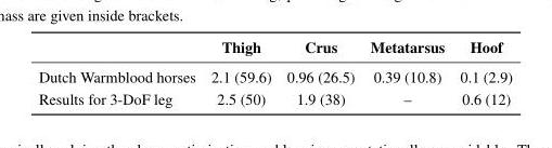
<table><thead><tr><td></td><td>Thigh</td><td>Crus</td><td>Metatarsus</td><td>Hoof</td></tr></thead><tbody><tr><td>Dutch Warmblood horses</td><td>2.1 (59.6)</td><td>0.96 (26.5)</td><td>0.39 (10.8)</td><td>0.1 (2.9)</td></tr><tr><td>Results for 3-DoF leg</td><td>2.5 (50)</td><td>1.9 (38)</td><td>–</td><td>0.6 (12)</td></tr></tbody></table>